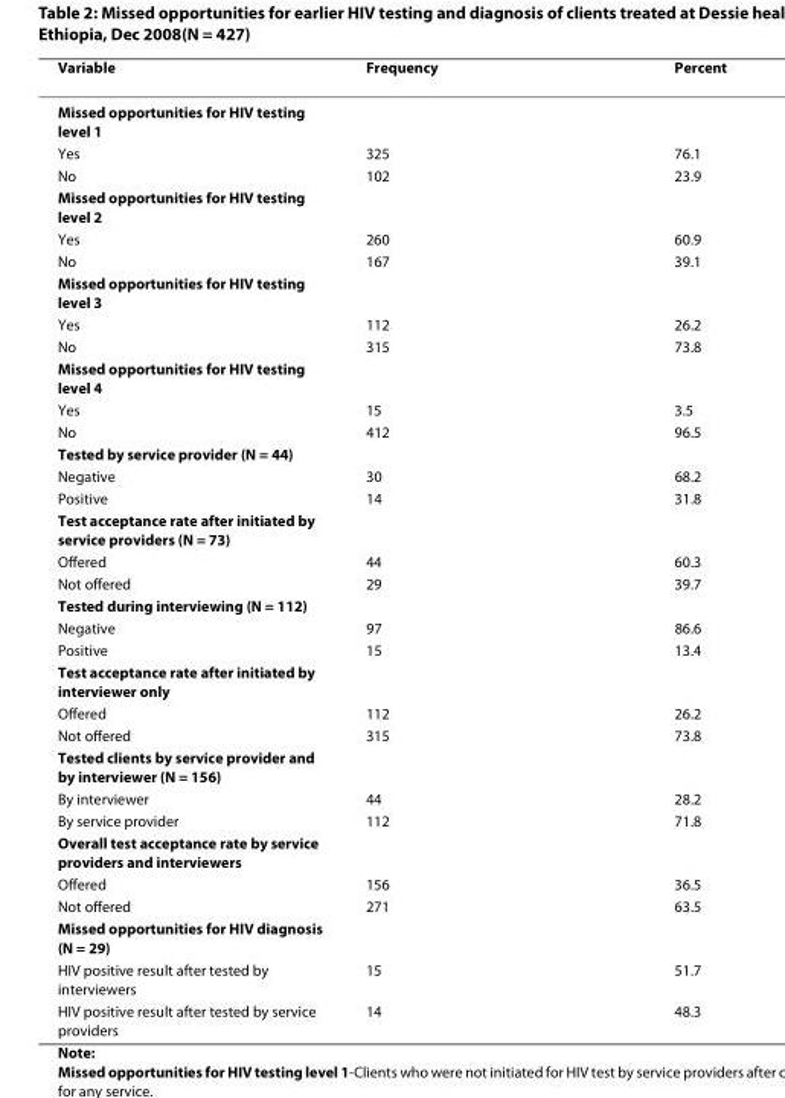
<table><thead><tr><td>Variable</td><td>Frequency</td><td>Percent</td></tr></thead><tbody><tr><td colspan="3">Missed opportunities for HIV testing level 1</td></tr><tr><td>Yes</td><td>325</td><td>76.1</td></tr><tr><td>No</td><td>102</td><td>23.9</td></tr><tr><td colspan="3">Missed opportunities for HIV testing level 2</td></tr><tr><td>Yes</td><td>260</td><td>60.9</td></tr><tr><td>No</td><td>167</td><td>39.1</td></tr><tr><td colspan="3">Missed opportunities for HIV testing level 3</td></tr><tr><td>Yes</td><td>112</td><td>26.2</td></tr><tr><td>No</td><td>315</td><td>73.8</td></tr><tr><td colspan="3">Missed opportunities for HIV testing level 4</td></tr><tr><td>Yes</td><td>15</td><td>3.5</td></tr><tr><td>No</td><td>412</td><td>96.5</td></tr><tr><td colspan="3">Tested by service provider (N = 44)</td></tr><tr><td>Negative</td><td>30</td><td>68.2</td></tr><tr><td>Positive</td><td>14</td><td>31.8</td></tr><tr><td colspan="3">Test acceptance rate after initiated by service providers (N = 73)</td></tr><tr><td>Offered</td><td>44</td><td>60.3</td></tr><tr><td>Not offered</td><td>29</td><td>39.7</td></tr><tr><td colspan="3">Tested during interviewing (N = 112)</td></tr><tr><td>Negative</td><td>97</td><td>86.6</td></tr><tr><td>Positive</td><td>15</td><td>13.4</td></tr><tr><td colspan="3">Test acceptance rate after initiated by interviewer only</td></tr><tr><td>Offered</td><td>112</td><td>26.2</td></tr><tr><td>Not offered</td><td>315</td><td>73.8</td></tr><tr><td colspan="3">Tested clients by service provider and by interviewer (N = 156)</td></tr><tr><td>By interviewer</td><td>44</td><td>28.2</td></tr><tr><td>By service provider</td><td>112</td><td>71.8</td></tr><tr><td colspan="3">Overall test acceptance rate by service providers and interviewers</td></tr><tr><td>Offered</td><td>156</td><td>36.5</td></tr><tr><td>Not offered</td><td>271</td><td>63.5</td></tr><tr><td colspan="3">Missed opportunities for HIV diagnosis (N = 29)</td></tr><tr><td>HIV positive result after tested by interviewers</td><td>15</td><td>51.7</td></tr><tr><td>HIV positive result after tested by service providers</td><td>14</td><td>48.3</td></tr></tbody></table>